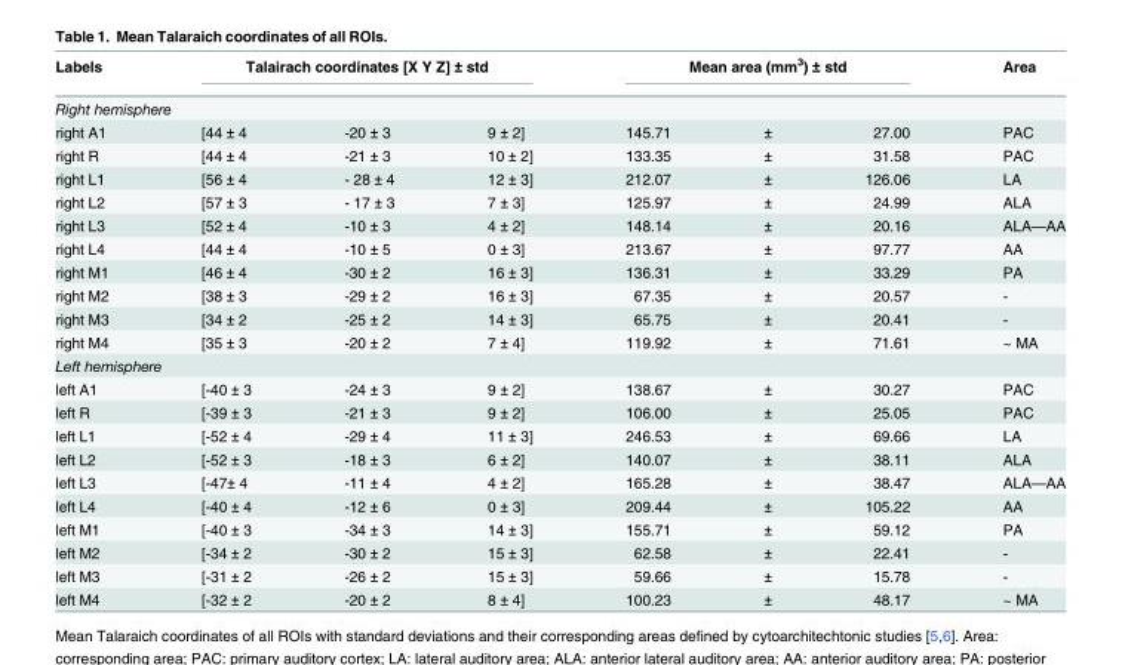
<table><thead><tr><td>Labels</td><td colspan="3">Talairach coordinates [X Y Z] ± std</td><td colspan="3">Mean area (mm<sup>3</sup>) ± std</td><td>Area</td></tr><tr><td colspan="8">Right hemisphere</td></tr><tr><td>right A1</td><td>[44 ± 4</td><td>-20 ± 3</td><td>9 ± 2]</td><td>145.71</td><td>±</td><td>27.00</td><td>PAC</td></tr></thead><tbody><tr><td>right R</td><td>[44 ± 4</td><td>-21 ± 3</td><td>10 ± 2]</td><td>133.35</td><td>±</td><td>31.58</td><td>PAC</td></tr><tr><td>right L1</td><td>[56 ± 4</td><td>- 28 ± 4</td><td>12 ± 3]</td><td>212.07</td><td>±</td><td>126.06</td><td>LA</td></tr><tr><td>right L2</td><td>[57 ± 3</td><td>- 17 ± 3</td><td>7 ± 3]</td><td>125.97</td><td>±</td><td>24.99</td><td>ALA</td></tr><tr><td>right L3</td><td>[52 ± 4</td><td>-10 ± 3</td><td>4 ± 2]</td><td>148.14</td><td>±</td><td>20.16</td><td>ALA—AA</td></tr><tr><td>right L4</td><td>[44 ± 4</td><td>-10 ± 5</td><td>0 ± 3]</td><td>213.67</td><td>±</td><td>97.77</td><td>AA</td></tr><tr><td>right M1</td><td>[46 ± 4</td><td>-30 ± 2</td><td>16 ± 3]</td><td>136.31</td><td>±</td><td>33.29</td><td>PA</td></tr><tr><td>right M2</td><td>[38 ± 3</td><td>-29 ± 2</td><td>16 ± 3]</td><td>67.35</td><td>±</td><td>20.57</td><td>-</td></tr><tr><td>right M3</td><td>[34 ± 2</td><td>-25 ± 2</td><td>14 ± 3]</td><td>65.75</td><td>±</td><td>20.41</td><td>-</td></tr><tr><td>right M4</td><td>[35 ± 3</td><td>-20 ± 2</td><td>7 ± 4]</td><td>119.92</td><td>±</td><td>71.61</td><td>~ MA</td></tr><tr><td colspan="8">Left hemisphere</td></tr><tr><td>left A1</td><td>[-40 ± 3</td><td>-24 ± 3</td><td>9 ± 2]</td><td>138.67</td><td>±</td><td>30.27</td><td>PAC</td></tr><tr><td>left R</td><td>[-39 ± 3</td><td>-21 ± 3</td><td>9 ± 2]</td><td>106.00</td><td>±</td><td>25.05</td><td>PAC</td></tr><tr><td>left L1</td><td>[-52 ± 4</td><td>-29 ± 4</td><td>11 ± 3]</td><td>246.53</td><td>±</td><td>69.66</td><td>LA</td></tr><tr><td>left L2</td><td>[-52 ± 3</td><td>-18 ± 3</td><td>6 ± 2]</td><td>140.07</td><td>±</td><td>38.11</td><td>ALA</td></tr><tr><td>left L3</td><td>[-47± 4</td><td>-11 ± 4</td><td>4 ± 2]</td><td>165.28</td><td>±</td><td>38.47</td><td>ALA—AA</td></tr><tr><td>left L4</td><td>[-40 ± 4</td><td>-12 ± 6</td><td>0 ± 3]</td><td>209.44</td><td>±</td><td>105.22</td><td>AA</td></tr><tr><td>left M1</td><td>[-40 ± 3</td><td>-34 ± 3</td><td>14 ± 3]</td><td>155.71</td><td>±</td><td>59.12</td><td>PA</td></tr><tr><td>left M2</td><td>[-34 ± 2</td><td>-30 ± 2</td><td>15 ± 3]</td><td>62.58</td><td>±</td><td>22.41</td><td>-</td></tr><tr><td>left M3</td><td>[-31 ± 2</td><td>-26 ± 2</td><td>15 ± 3]</td><td>59.66</td><td>±</td><td>15.78</td><td>-</td></tr><tr><td>left M4</td><td>[-32 ± 2</td><td>-20 ± 2</td><td>8 ± 4]</td><td>100.23</td><td>±</td><td>48.17</td><td>~ MA</td></tr></tbody></table>